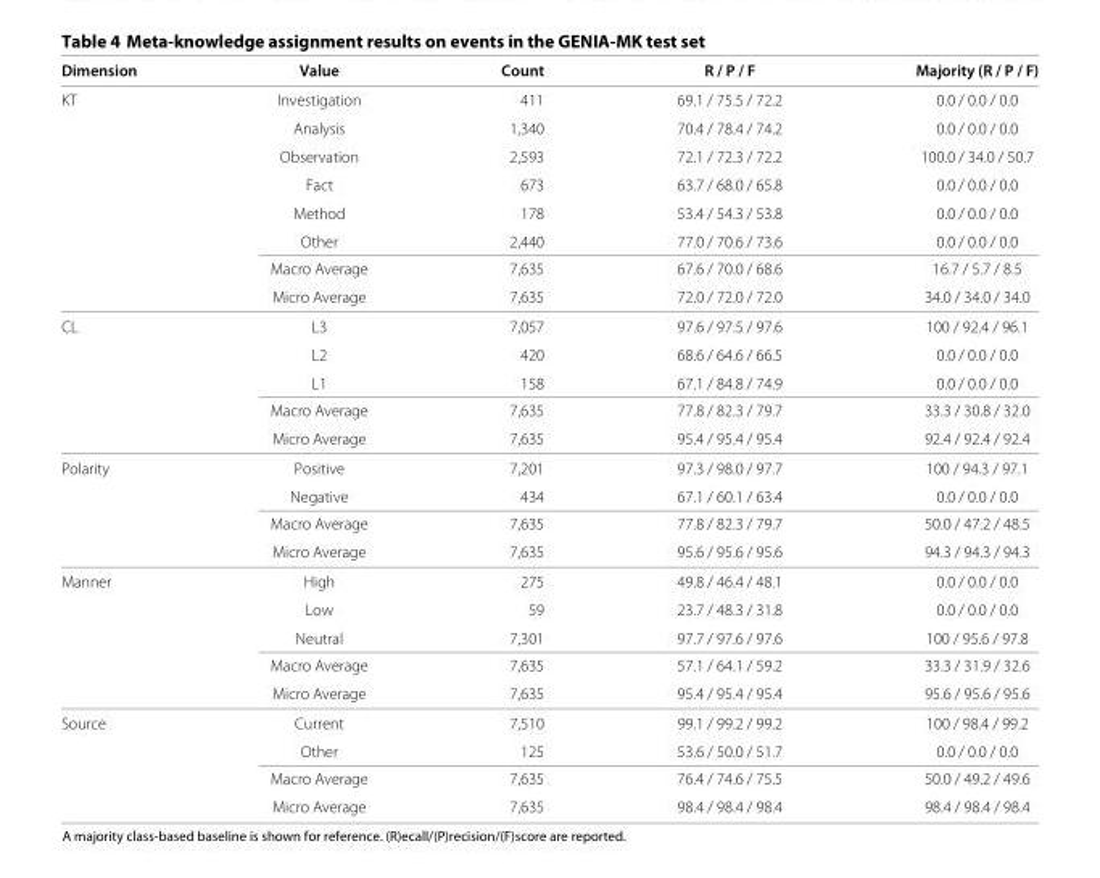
<table><thead><tr><td>Dimension</td><td>Value</td><td>Count</td><td>R / P / F</td><td>Majority (R / P / F)</td></tr></thead><tbody><tr><td rowspan="8">KT</td><td>Investigation</td><td>411</td><td>69.1 / 75.5 / 72.2</td><td>0.0 / 0.0 / 0.0</td></tr><tr><td>Analysis</td><td>1,340</td><td>70.4 / 78.4 / 74.2</td><td>0.0 / 0.0 / 0.0</td></tr><tr><td>Observation</td><td>2,593</td><td>72.1 / 72.3 / 72.2</td><td>100.0 / 34.0 / 50.7</td></tr><tr><td>Fact</td><td>673</td><td>63.7 / 68.0 / 65.8</td><td>0.0 / 0.0 / 0.0</td></tr><tr><td>Method</td><td>178</td><td>53.4 / 54.3 / 53.8</td><td>0.0 / 0.0 / 0.0</td></tr><tr><td>Other</td><td>2,440</td><td>77.0 / 70.6 / 73.6</td><td>0.0 / 0.0 / 0.0</td></tr><tr><td>Macro Average</td><td>7,635</td><td>67.6 / 70.0 / 68.6</td><td>16.7 / 5.7 / 8.5</td></tr><tr><td>Micro Average</td><td>7,635</td><td>72.0 / 72.0 / 72.0</td><td>34.0 / 34.0 / 34.0</td></tr><tr><td rowspan="5">CL</td><td>L3</td><td>7,057</td><td>97.6 / 97.5 / 97.6</td><td>100 / 92.4 / 96.1</td></tr><tr><td>L2</td><td>420</td><td>68.6 / 64.6 / 66.5</td><td>0.0 / 0.0 / 0.0</td></tr><tr><td>L1</td><td>158</td><td>67.1 / 84.8 / 74.9</td><td>0.0 / 0.0 / 0.0</td></tr><tr><td>Macro Average</td><td>7,635</td><td>77.8 / 82.3 / 79.7</td><td>33.3 / 30.8 / 32.0</td></tr><tr><td>Micro Average</td><td>7,635</td><td>95.4 / 95.4 / 95.4</td><td>92.4 / 92.4 / 92.4</td></tr><tr><td rowspan="4">Polarity</td><td>Positive</td><td>7,201</td><td>97.3 / 98.0 / 97.7</td><td>100 / 94.3 / 97.1</td></tr><tr><td>Negative</td><td>434</td><td>67.1 / 60.1 / 63.4</td><td>0.0 / 0.0 / 0.0</td></tr><tr><td>Macro Average</td><td>7,635</td><td>77.8 / 82.3 / 79.7</td><td>50.0 / 47.2 / 48.5</td></tr><tr><td>Micro Average</td><td>7,635</td><td>95.6 / 95.6 / 95.6</td><td>94.3 / 94.3 / 94.3</td></tr><tr><td rowspan="5">Manner</td><td>High</td><td>275</td><td>49.8 / 46.4 / 48.1</td><td>0.0 / 0.0 / 0.0</td></tr><tr><td>Low</td><td>59</td><td>23.7 / 48.3 / 31.8</td><td>0.0 / 0.0 / 0.0</td></tr><tr><td>Neutral</td><td>7,301</td><td>97.7 / 97.6 / 97.6</td><td>100 / 95.6 / 97.8</td></tr><tr><td>Macro Average</td><td>7,635</td><td>57.1 / 64.1 / 59.2</td><td>33.3 / 31.9 / 32.6</td></tr><tr><td>Micro Average</td><td>7,635</td><td>95.4 / 95.4 / 95.4</td><td>95.6 / 95.6 / 95.6</td></tr><tr><td rowspan="4">Source</td><td>Current</td><td>7,510</td><td>99.1 / 99.2 / 99.2</td><td>100 / 98.4 / 99.2</td></tr><tr><td>Other</td><td>125</td><td>53.6 / 50.0 / 51.7</td><td>0.0 / 0.0 / 0.0</td></tr><tr><td>Macro Average</td><td>7,635</td><td>76.4 / 74.6 / 75.5</td><td>50.0 / 49.2 / 49.6</td></tr><tr><td>Micro Average</td><td>7,635</td><td>98.4 / 98.4 / 98.4</td><td>98.4 / 98.4 / 98.4</td></tr></tbody></table>